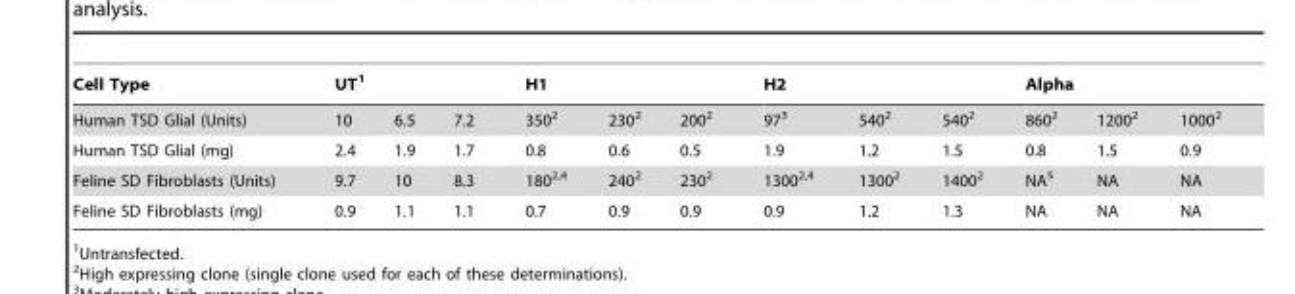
<table><thead><tr><td rowspan="2">Cell Type Human TSD Glial (Units)</td><td colspan="3">UT<sup>1</sup></td><td colspan="3">H1</td><td colspan="3">H2</td><td colspan="3">Alpha</td></tr><tr><td>10</td><td>6.5</td><td>7.2</td><td>350<sup>2</sup></td><td>230<sup>2</sup></td><td>200<sup>2</sup></td><td>97<sup>3</sup></td><td>540<sup>2</sup></td><td>540<sup>2</sup></td><td>860<sup>2</sup></td><td>1200<sup>2</sup></td><td>1000<sup>2</sup></td></tr></thead><tbody><tr><td>Human TSD Glial (mg)</td><td>2.4</td><td>1.9</td><td>1.7</td><td>0.8</td><td>0.6</td><td>0.5</td><td>1.9</td><td>1.2</td><td>1.5</td><td>0.8</td><td>1.5</td><td>0.9</td></tr><tr><td>Feline SD Fibroblasts (Units)</td><td>9.7</td><td>10</td><td>8.3</td><td>180<sup>2,4</sup></td><td>240<sup>2</sup></td><td>230<sup>2</sup></td><td>1300<sup>2,4</sup></td><td>1300<sup>2</sup></td><td>1400<sup>2</sup></td><td>NA<sup>5</sup></td><td>NA</td><td>NA</td></tr><tr><td>Feline SD Fibroblasts (mg)</td><td>0.9</td><td>1.1</td><td>1.1</td><td>0.7</td><td>0.9</td><td>0.9</td><td>0.9</td><td>1.2</td><td>1.3</td><td>NA</td><td>NA</td><td>NA</td></tr></tbody></table>